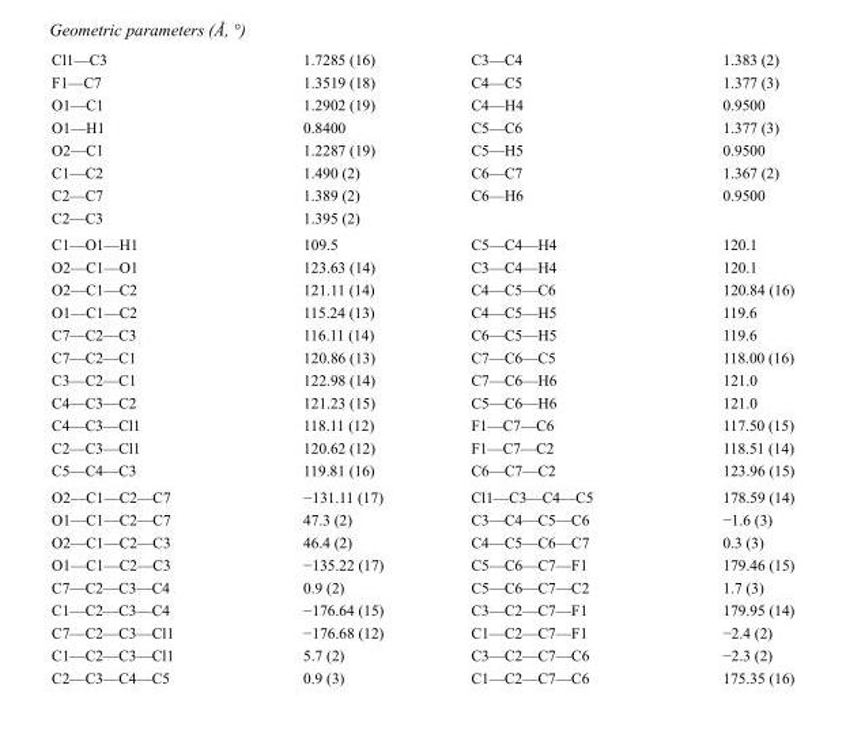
<table><tbody><tr><td>Cl1—C3</td><td>1.7285 (16)</td><td>C3—C4</td><td>1.383 (2)</td></tr><tr><td>F1—C7</td><td>1.3519 (18)</td><td>C4—C5</td><td>1.377 (3)</td></tr><tr><td>O1—C1</td><td>1.2902 (19)</td><td>C4—H4</td><td>0.9500</td></tr><tr><td>O1—H1</td><td>0.8400</td><td>C5—C6</td><td>1.377 (3)</td></tr><tr><td>O2—C1</td><td>1.2287 (19)</td><td>C5—H5</td><td>0.9500</td></tr><tr><td>C1—C2</td><td>1.490 (2)</td><td>C6—C7</td><td>1.367 (2)</td></tr><tr><td>C2—C7</td><td>1.389 (2)</td><td>C6—H6</td><td>0.9500</td></tr><tr><td>C2—C3</td><td>1.395 (2)</td><td></td><td></td></tr><tr><td>C1—O1—H1</td><td>109.5</td><td>C5—C4—H4</td><td>120.1</td></tr><tr><td>O2—C1—O1</td><td>123.63 (14)</td><td>C3—C4—H4</td><td>120.1</td></tr><tr><td>O2—C1—C2</td><td>121.11 (14)</td><td>C4—C5—C6</td><td>120.84 (16)</td></tr><tr><td>O1—C1—C2</td><td>115.24 (13)</td><td>C4—C5—H5</td><td>119.6</td></tr><tr><td>C7—C2—C3</td><td>116.11 (14)</td><td>C6—C5—H5</td><td>119.6</td></tr><tr><td>C7—C2—C1</td><td>120.86 (13)</td><td>C7—C6—C5</td><td>118.00 (16)</td></tr><tr><td>C3—C2—C1</td><td>122.98 (14)</td><td>C7—C6—H6</td><td>121.0</td></tr><tr><td>C4—C3—C2</td><td>121.23 (15)</td><td>C5—C6—H6</td><td>121.0</td></tr><tr><td>C4—C3—Cl1</td><td>118.11 (12)</td><td>F1—C7—C6</td><td>117.50 (15)</td></tr><tr><td>C2—C3—Cl1</td><td>120.62 (12)</td><td>F1—C7—C2</td><td>118.51 (14)</td></tr><tr><td>C5—C4—C3</td><td>119.81 (16)</td><td>C6—C7—C2</td><td>123.96 (15)</td></tr><tr><td>O2—C1—C2—C7</td><td>−131.11 (17)</td><td>Cl1—C3—C4—C5</td><td>178.59 (14)</td></tr><tr><td>O1—C1—C2—C7</td><td>47.3 (2)</td><td>C3—C4—C5—C6</td><td>−1.6 (3)</td></tr><tr><td>O2—C1—C2—C3</td><td>46.4 (2)</td><td>C4—C5—C6—C7</td><td>0.3 (3)</td></tr><tr><td>O1—C1—C2—C3</td><td>−135.22 (17)</td><td>C5—C6—C7—F1</td><td>179.46 (15)</td></tr><tr><td>C7—C2—C3—C4</td><td>0.9 (2)</td><td>C5—C6—C7—C2</td><td>1.7 (3)</td></tr><tr><td>C1—C2—C3—C4</td><td>−176.64 (15)</td><td>C3—C2—C7—F1</td><td>179.95 (14)</td></tr><tr><td>C7—C2—C3—Cl1</td><td>−176.68 (12)</td><td>C1—C2—C7—F1</td><td>−2.4 (2)</td></tr><tr><td>C1—C2—C3—Cl1</td><td>5.7 (2)</td><td>C3—C2—C7—C6</td><td>−2.3 (2)</td></tr><tr><td>C2—C3—C4—C5</td><td>0.9 (3)</td><td>C1—C2—C7—C6</td><td>175.35 (16)</td></tr></tbody></table>